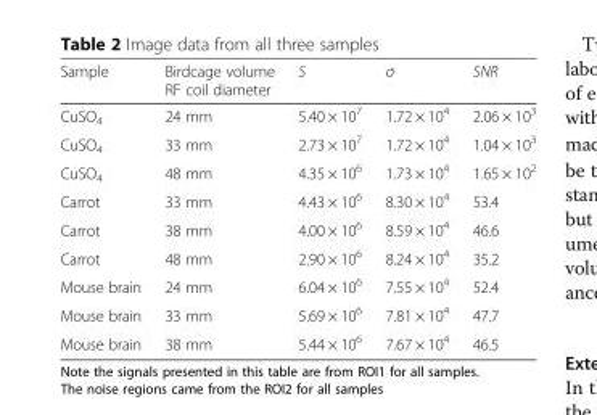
<table><thead><tr><td>Sample</td><td>Birdcage volume RF coil diameter</td><td>S</td><td>σ</td><td>SNR</td></tr></thead><tbody><tr><td>CuSO<sub>4</sub></td><td>24 mm</td><td>5.40 × 10<sup>7</sup></td><td>1.72 × 10<sup>4</sup></td><td>2.06 × 10<sup>3</sup></td></tr><tr><td>CuSO<sub>4</sub></td><td>33 mm</td><td>2.73 × 10<sup>7</sup></td><td>1.72 × 10<sup>4</sup></td><td>1.04 × 10<sup>3</sup></td></tr><tr><td>CuSO<sub>4</sub></td><td>48 mm</td><td>4.35 × 10<sup>6</sup></td><td>1.73 × 10<sup>4</sup></td><td>1.65 × 10<sup>2</sup></td></tr><tr><td>Carrot</td><td>33 mm</td><td>4.43 × 10<sup>6</sup></td><td>8.30 × 10<sup>4</sup></td><td>53.4</td></tr><tr><td>Carrot</td><td>38 mm</td><td>4.00 × 10<sup>6</sup></td><td>8.59 × 10<sup>4</sup></td><td>46.6</td></tr><tr><td>Carrot</td><td>48 mm</td><td>2.90 × 10<sup>6</sup></td><td>8.24 × 10<sup>4</sup></td><td>35.2</td></tr><tr><td>Mouse brain</td><td>24 mm</td><td>6.04 × 10<sup>6</sup></td><td>7.55 × 10<sup>4</sup></td><td>52.4</td></tr><tr><td>Mouse brain</td><td>33 mm</td><td>5.69 × 10<sup>6</sup></td><td>7.81 × 10<sup>4</sup></td><td>47.7</td></tr><tr><td>Mouse brain</td><td>38 mm</td><td>5.44 × 10<sup>6</sup></td><td>7.67 × 10<sup>4</sup></td><td>46.5</td></tr></tbody></table>